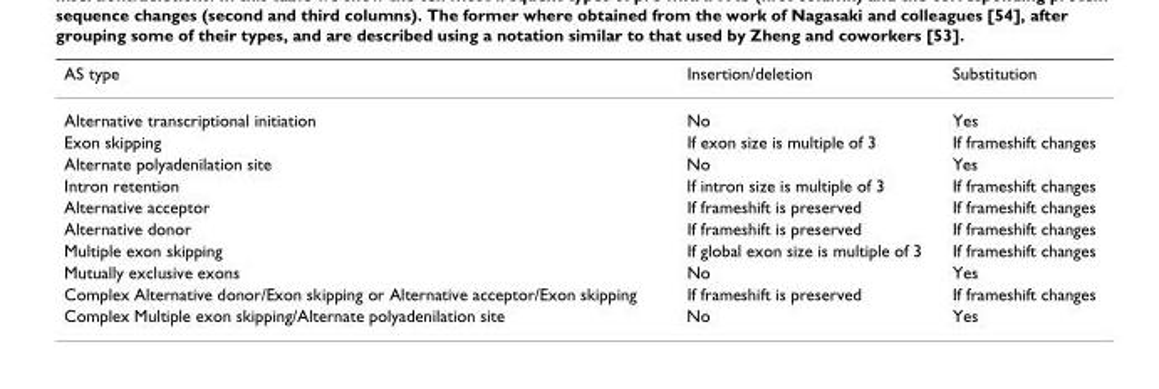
<table><thead><tr><td>AS type</td><td>Insertion/deletion</td><td>Substitution</td></tr></thead><tbody><tr><td>Alternative transcriptional initiation</td><td>No</td><td>Yes</td></tr><tr><td>Exon skipping</td><td>If exon size is multiple of 3</td><td>If frameshift changes</td></tr><tr><td>Alternate polyadenilation site</td><td>No</td><td>Yes</td></tr><tr><td>Intron retention</td><td>If intron size is multiple of 3</td><td>If frameshift changes</td></tr><tr><td>Alternative acceptor</td><td>If frameshift is preserved</td><td>If frameshift changes</td></tr><tr><td>Alternative donor</td><td>If frameshift is preserved</td><td>If frameshift changes</td></tr><tr><td>Multiple exon skipping</td><td>If global exon size is multiple of 3</td><td>If frameshift changes</td></tr><tr><td>Mutually exclusive exons</td><td>No</td><td>Yes</td></tr><tr><td>Complex Alternative donor/Exon skipping or Alternative acceptor/Exon skipping</td><td>If frameshift is preserved</td><td>If frameshift changes</td></tr><tr><td>Complex Multiple exon skipping/Alternate polyadenilation site</td><td>No</td><td>Yes</td></tr></tbody></table>